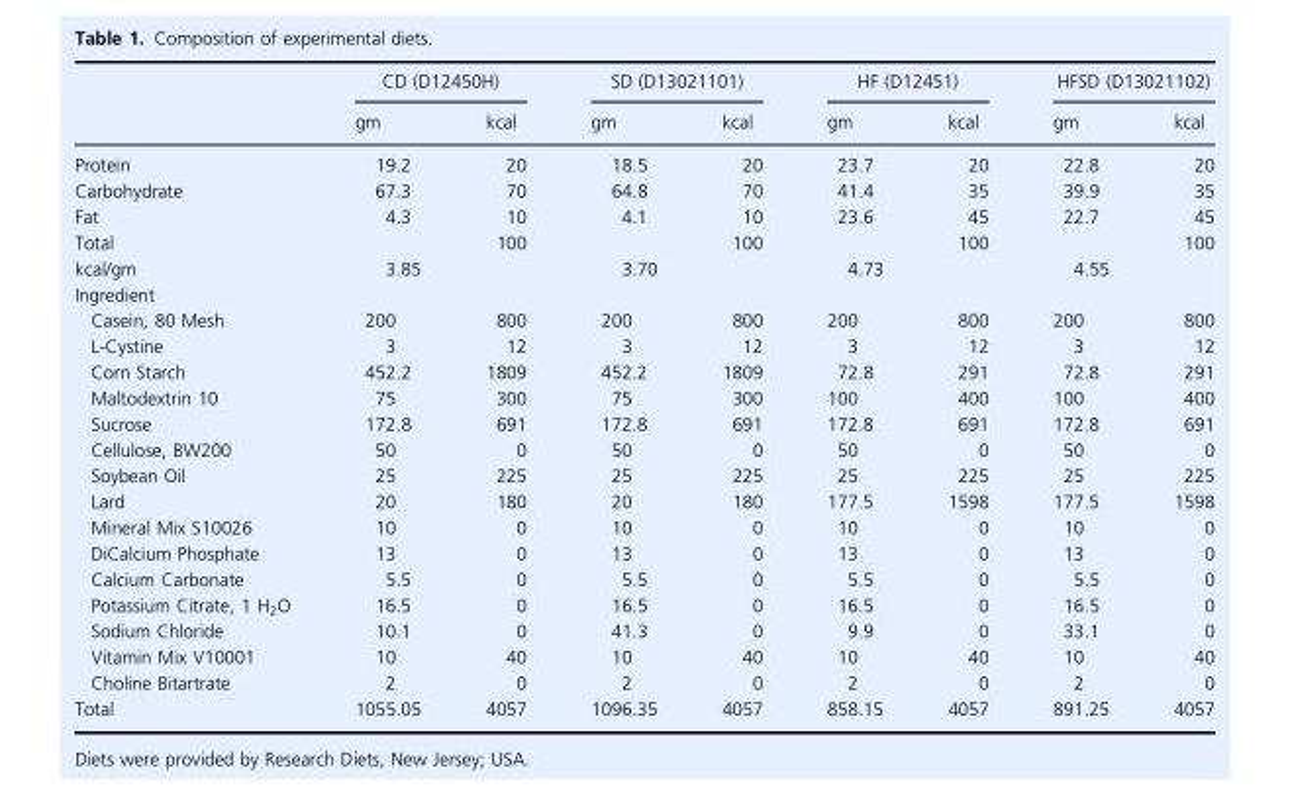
<table><thead><tr><td rowspan="2"></td><td colspan="2">CD (D12450H)</td><td colspan="2">SD (D13021101)</td><td colspan="2">HF (D12451)</td><td colspan="2">HFSD (D13021102)</td></tr><tr><td>gm</td><td>kcal</td><td>gm</td><td>kcal</td><td>gm</td><td>kcal</td><td>gm</td><td>kcal</td></tr></thead><tbody><tr><td>Protein</td><td>19.2</td><td>20</td><td>18.5</td><td>20</td><td>23.7</td><td>20</td><td>22.8</td><td>20</td></tr><tr><td>Carbohydrate</td><td>67.3</td><td>70</td><td>64.8</td><td>70</td><td>41.4</td><td>35</td><td>39.9</td><td>35</td></tr><tr><td>Fat</td><td>4.3</td><td>10</td><td>4.1</td><td>10</td><td>23.6</td><td>45</td><td>22.7</td><td>45</td></tr><tr><td>Total</td><td></td><td>100</td><td></td><td>100</td><td></td><td>100</td><td></td><td>100</td></tr><tr><td>kcal/gm</td><td>3.85</td><td></td><td>3.70</td><td></td><td>4.73</td><td></td><td>4.55</td><td></td></tr><tr><td colspan="9">Ingredient</td></tr><tr><td>Casein, 80 Mesh</td><td>200</td><td>800</td><td>200</td><td>800</td><td>200</td><td>800</td><td>200</td><td>800</td></tr><tr><td>L-Cystine</td><td>3</td><td>12</td><td>3</td><td>12</td><td>3</td><td>12</td><td>3</td><td>12</td></tr><tr><td>Corn Starch</td><td>452.2</td><td>1809</td><td>452.2</td><td>1809</td><td>72.8</td><td>291</td><td>72.8</td><td>291</td></tr><tr><td>Maltodextrin 10</td><td>75</td><td>300</td><td>75</td><td>300</td><td>100</td><td>400</td><td>100</td><td>400</td></tr><tr><td>Sucrose</td><td>172.8</td><td>691</td><td>172.8</td><td>691</td><td>172.8</td><td>691</td><td>172.8</td><td>691</td></tr><tr><td>Cellulose, BW200</td><td>50</td><td>0</td><td>50</td><td>0</td><td>50</td><td>0</td><td>50</td><td>0</td></tr><tr><td>Soybean Oil</td><td>25</td><td>225</td><td>25</td><td>225</td><td>25</td><td>225</td><td>25</td><td>225</td></tr><tr><td>Lard</td><td>20</td><td>180</td><td>20</td><td>180</td><td>177.5</td><td>1598</td><td>177.5</td><td>1598</td></tr><tr><td>Mineral Mix S10026</td><td>10</td><td>0</td><td>10</td><td>0</td><td>10</td><td>0</td><td>10</td><td>0</td></tr><tr><td>DiCalcium Phosphate</td><td>13</td><td>0</td><td>13</td><td>0</td><td>13</td><td>0</td><td>13</td><td>0</td></tr><tr><td>Calcium Carbonate</td><td>5.5</td><td>0</td><td>5.5</td><td>0</td><td>5.5</td><td>0</td><td>5.5</td><td>0</td></tr><tr><td>Potassium Citrate, 1 H<sub>2</sub>O</td><td>16.5</td><td>0</td><td>16.5</td><td>0</td><td>16.5</td><td>0</td><td>16.5</td><td>0</td></tr><tr><td>Sodium Chloride</td><td>10.1</td><td>0</td><td>41.3</td><td>0</td><td>9.9</td><td>0</td><td>33.1</td><td>0</td></tr><tr><td>Vitamin Mix V10001</td><td>10</td><td>40</td><td>10</td><td>40</td><td>10</td><td>40</td><td>10</td><td>40</td></tr><tr><td>Choline Bitartrate</td><td>2</td><td>0</td><td>2</td><td>0</td><td>2</td><td>0</td><td>2</td><td>0</td></tr><tr><td>Total</td><td>1055.05</td><td>4057</td><td>1096.35</td><td>4057</td><td>858.15</td><td>4057</td><td>891.25</td><td>4057</td></tr></tbody></table>